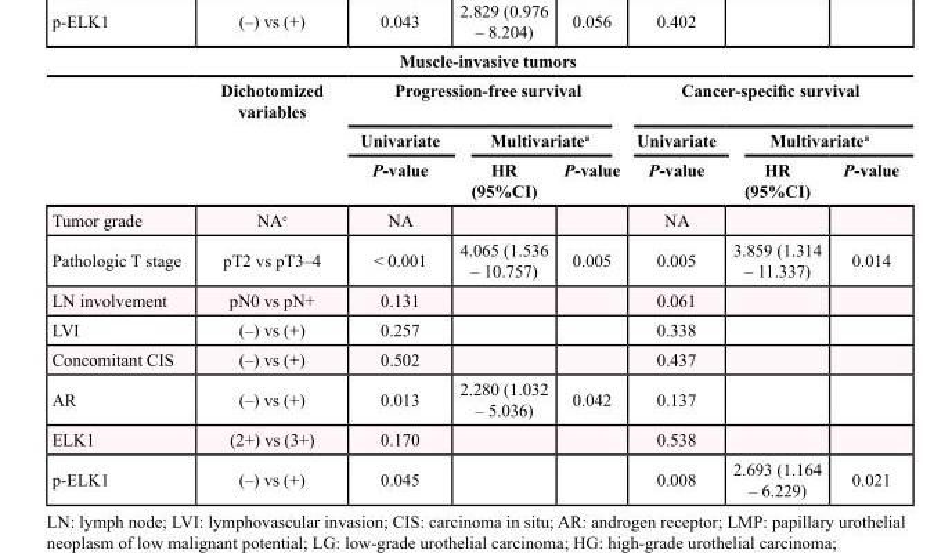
<table><thead><tr><td colspan="8">Muscle-invasive tumors</td></tr><tr><td rowspan="3"></td><td rowspan="3">Dichotomized variables</td><td colspan="3">Progression-free survival</td><td colspan="3">Cancer-specific survival</td></tr><tr><td rowspan="2">Univariate P-value</td><td colspan="2">Multivariate<sup>a</sup></td><td rowspan="2">Univariate P-value</td><td colspan="2">Multivariate<sup>a</sup></td></tr><tr><td>HR (95%CI)</td><td>P-value</td><td>HR (95%CI)</td><td>P-value</td></tr></thead><tbody><tr><td>Tumor grade</td><td>NA<sup>e</sup></td><td>NA</td><td></td><td></td><td>NA</td><td></td><td></td></tr><tr><td>Pathologic T stage</td><td>pT2 vs pT3–4</td><td>&lt; 0.001</td><td>4.065 (1.536 – 10.757)</td><td>0.005</td><td>0.005</td><td>3.859 (1.314 – 11.337)</td><td>0.014</td></tr><tr><td>LN involvement</td><td>pN0 vs pN+</td><td>0.131</td><td></td><td></td><td>0.061</td><td></td><td></td></tr><tr><td>LVI</td><td>(–) vs (+)</td><td>0.257</td><td></td><td></td><td>0.338</td><td></td><td></td></tr><tr><td>Concomitant CIS</td><td>(–) vs (+)</td><td>0.502</td><td></td><td></td><td>0.437</td><td></td><td></td></tr><tr><td>AR</td><td>(–) vs (+)</td><td>0.013</td><td>2.280 (1.032 – 5.036)</td><td>0.042</td><td>0.137</td><td></td><td></td></tr><tr><td>ELK1</td><td>(2+) vs (3+)</td><td>0.170</td><td></td><td></td><td>0.538</td><td></td><td></td></tr><tr><td>p-ELK1</td><td>(–) vs (+)</td><td>0.045</td><td></td><td></td><td>0.008</td><td>2.693 (1.164 – 6.229)</td><td>0.021</td></tr></tbody></table>